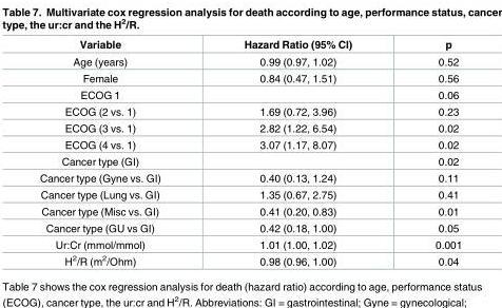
<table><thead><tr><td>Variable</td><td>Hazard Ratio (95% CI)</td><td>p</td></tr></thead><tbody><tr><td>Age (years)</td><td>0.99 (0.97, 1.02)</td><td>0.52</td></tr><tr><td>Female</td><td>0.84 (0.47, 1.51)</td><td>0.56</td></tr><tr><td>ECOG 1</td><td></td><td>0.06</td></tr><tr><td>ECOG (2 vs. 1)</td><td>1.69 (0.72, 3.96)</td><td>0.23</td></tr><tr><td>ECOG (3 vs. 1)</td><td>2.82 (1.22, 6.54)</td><td>0.02</td></tr><tr><td>ECOG (4 vs. 1)</td><td>3.07 (1.17, 8.07)</td><td>0.02</td></tr><tr><td>Cancer type (GI)</td><td></td><td>0.02</td></tr><tr><td>Cancer type (Gyne vs. GI)</td><td>0.40 (0.13, 1.24)</td><td>0.11</td></tr><tr><td>Cancer type (Lung vs. GI)</td><td>1.35 (0.67, 2.75)</td><td>0.41</td></tr><tr><td>Cancer type (Misc vs. GI)</td><td>0.41 (0.20, 0.83)</td><td>0.01</td></tr><tr><td>Cancer type (GU vs GI)</td><td>0.42 (0.18, 1.00)</td><td>0.05</td></tr><tr><td>Ur:Cr (mmol/mmol)</td><td>1.01 (1.00, 1.02)</td><td>0.001</td></tr><tr><td>H<sup>2</sup>/R (m<sup>2</sup>/Ohm)</td><td>0.98 (0.96, 1.00)</td><td>0.04</td></tr></tbody></table>